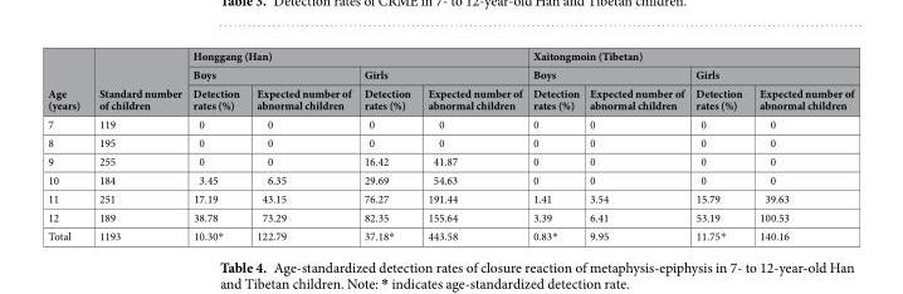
<table><thead><tr><td rowspan="3">Age (years)</td><td rowspan="3">Standard number of children</td><td colspan="4">Honggang (Han)</td><td colspan="4">Xaitongmoin (Tibetan)</td></tr><tr><td colspan="2">Boys</td><td colspan="2">Girls</td><td colspan="2">Boys</td><td colspan="2">Girls</td></tr><tr><td>Detection rates (%)</td><td>Expected number of abnormal children</td><td>Detection rates (%)</td><td>Expected number of abnormal children</td><td>Detection rates (%)</td><td>Expected number of abnormal children</td><td>Detection rates (%)</td><td>Expected number of abnormal children</td></tr></thead><tbody><tr><td>7</td><td>119</td><td>0</td><td>0</td><td>0</td><td>0</td><td>0</td><td>0</td><td>0</td><td>0</td></tr><tr><td>8</td><td>195</td><td>0</td><td>0</td><td>0</td><td>0</td><td>0</td><td>0</td><td>0</td><td>0</td></tr><tr><td>9</td><td>255</td><td>0</td><td>0</td><td>16.42</td><td>41.87</td><td>0</td><td>0</td><td>0</td><td>0</td></tr><tr><td>10</td><td>184</td><td>3.45</td><td>6.35</td><td>29.69</td><td>54.63</td><td>0</td><td>0</td><td>0</td><td>0</td></tr><tr><td>11</td><td>251</td><td>17.19</td><td>43.15</td><td>76.27</td><td>191.44</td><td>1.41</td><td>3.54</td><td>15.79</td><td>39.63</td></tr><tr><td>12</td><td>189</td><td>38.78</td><td>73.29</td><td>82.35</td><td>155.64</td><td>3.39</td><td>6.41</td><td>53.19</td><td>100.53</td></tr><tr><td>Total</td><td>1193</td><td>10.30*</td><td>122.79</td><td>37.18*</td><td>443.58</td><td>0.83*</td><td>9.95</td><td>11.75*</td><td>140.16</td></tr></tbody></table>